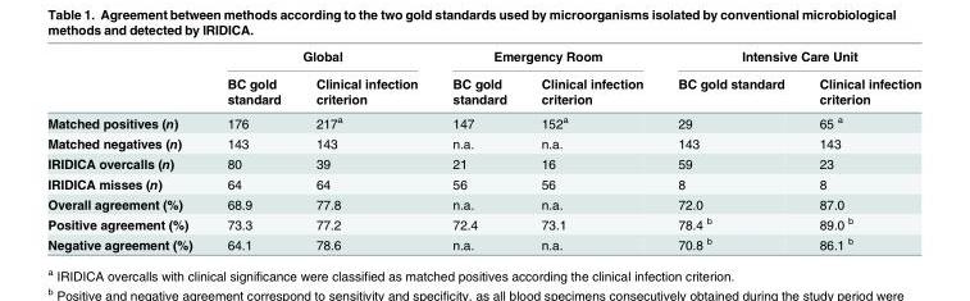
<table><thead><tr><td rowspan="2"></td><td colspan="2">Global</td><td colspan="2">Emergency Room</td><td colspan="2">Intensive Care Unit</td></tr><tr><td>BC gold standard</td><td>Clinical infection criterion</td><td>BC gold standard</td><td>Clinical infection criterion</td><td>BC gold standard</td><td>Clinical infection criterion</td></tr></thead><tbody><tr><td>Matched positives (n)</td><td>176</td><td>217<sup>a</sup></td><td>147</td><td>152<sup>a</sup></td><td>29</td><td>65 <sup>a</sup></td></tr><tr><td>Matched negatives (n)</td><td>143</td><td>143</td><td>n.a.</td><td>n.a.</td><td>143</td><td>143</td></tr><tr><td>IRIDICA overcalls (n)</td><td>80</td><td>39</td><td>21</td><td>16</td><td>59</td><td>23</td></tr><tr><td>IRIDICA misses (n)</td><td>64</td><td>64</td><td>56</td><td>56</td><td>8</td><td>8</td></tr><tr><td>Overall agreement (%)</td><td>68.9</td><td>77.8</td><td>n.a.</td><td>n.a.</td><td>72.0</td><td>87.0</td></tr><tr><td>Positive agreement (%)</td><td>73.3</td><td>77.2</td><td>72.4</td><td>73.1</td><td>78.4 <sup>b</sup></td><td>89.0 <sup>b</sup></td></tr><tr><td>Negative agreement (%)</td><td>64.1</td><td>78.6</td><td>n.a.</td><td>n.a.</td><td>70.8 <sup>b</sup></td><td>86.1 <sup>b</sup></td></tr></tbody></table>